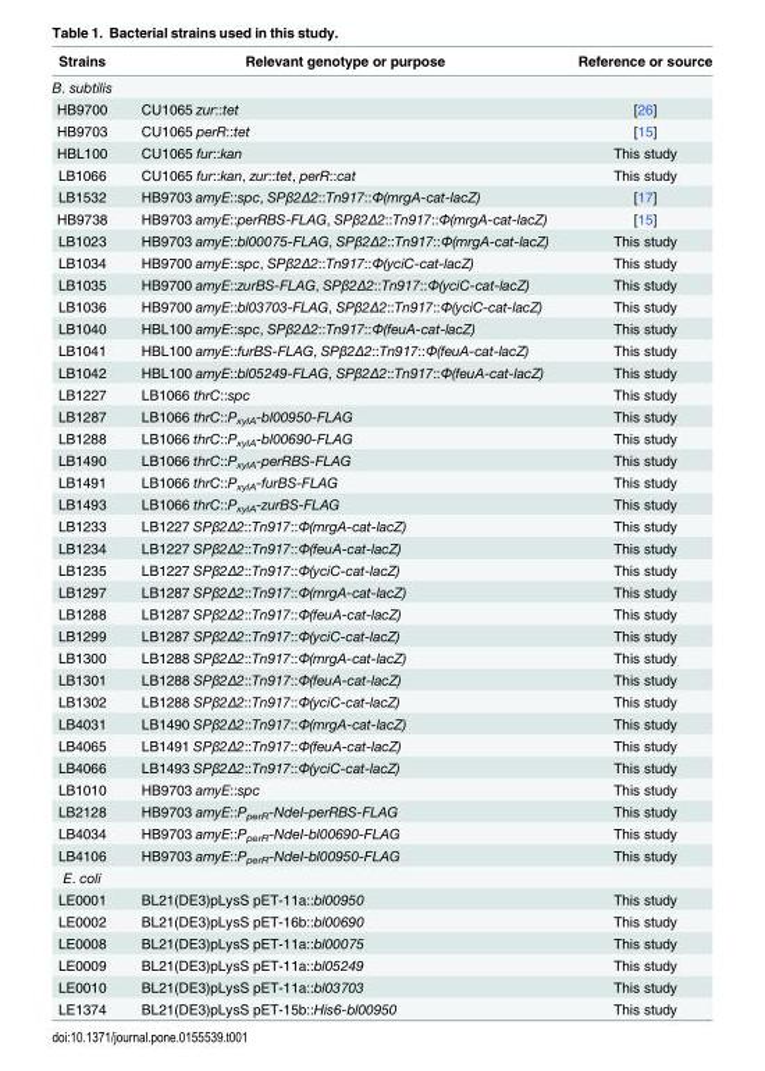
<table><thead><tr><td>Strains</td><td>Relevant genotype or purpose</td><td>Reference or source</td></tr></thead><tbody><tr><td colspan="3">B. subtilis</td></tr><tr><td>HB9700</td><td>CU1065 zur::tet</td><td>[26]</td></tr><tr><td>HB9703</td><td>CU1065 perR::tet</td><td>[15]</td></tr><tr><td>HBL100</td><td>CU1065 fur::kan</td><td>This study</td></tr><tr><td>LB1066</td><td>CU1065 fur::kan, zur::tet, perR::cat</td><td>This study</td></tr><tr><td>LB1532</td><td>HB9703 amyE::spc, SPβ2Δ2::Tn917::Φ(mrgA-cat-lacZ)</td><td>[17]</td></tr><tr><td>HB9738</td><td>HB9703 amyE::perRBS-FLAG, SPβ2Δ2::Tn917::Φ(mrgA-cat-lacZ)</td><td>[15]</td></tr><tr><td>LB1023</td><td>HB9703 amyE::bl00075-FLAG, SPβ2Δ2::Tn917::Φ(mrgA-cat-lacZ)</td><td>This study</td></tr><tr><td>LB1034</td><td>HB9700 amyE::spc, SPβ2Δ2::Tn917::Φ(yciC-cat-lacZ)</td><td>This study</td></tr><tr><td>LB1035</td><td>HB9700 amyE::zurBS-FLAG, SPβ2Δ2::Tn917::Φ(yciC-cat-lacZ)</td><td>This study</td></tr><tr><td>LB1036</td><td>HB9700 amyE::bl03703-FLAG, SPβ2Δ2::Tn917::Φ(yciC-cat-lacZ)</td><td>This study</td></tr><tr><td>LB1040</td><td>HBL100 amyE::spc, SPβ2Δ2::Tn917::Φ(feuA-cat-lacZ)</td><td>This study</td></tr><tr><td>LB1041</td><td>HBL100 amyE::furBS-FLAG, SPβ2Δ2::Tn917::Φ(feuA-cat-lacZ)</td><td>This study</td></tr><tr><td>LB1042</td><td>HBL100 amyE::bl05249-FLAG, SPβ2Δ2::Tn917::Φ(feuA-cat-lacZ)</td><td>This study</td></tr><tr><td>LB1227</td><td>LB1066 thrC::spc</td><td>This study</td></tr><tr><td>LB1287</td><td>LB1066 thrC::P<sub>xylA</sub>-bl00950-FLAG</td><td>This study</td></tr><tr><td>LB1288</td><td>LB1066 thrC::P<sub>xylA</sub>-bl00690-FLAG</td><td>This study</td></tr><tr><td>LB1490</td><td>LB1066 thrC::P<sub>xylA</sub>-perRBS-FLAG</td><td>This study</td></tr><tr><td>LB1491</td><td>LB1066 thrC::P<sub>xylA</sub>-furBS-FLAG</td><td>This study</td></tr><tr><td>LB1493</td><td>LB1066 thrC::P<sub>xylA</sub>-zurBS-FLAG</td><td>This study</td></tr><tr><td>LB1233</td><td>LB1227 SPβ2Δ2::Tn917::Φ(mrgA-cat-lacZ)</td><td>This study</td></tr><tr><td>LB1234</td><td>LB1227 SPβ2Δ2::Tn917::Φ(feuA-cat-lacZ)</td><td>This study</td></tr><tr><td>LB1235</td><td>LB1227 SPβ2Δ2::Tn917::Φ(yciC-cat-lacZ)</td><td>This study</td></tr><tr><td>LB1297</td><td>LB1287 SPβ2Δ2::Tn917::Φ(mrgA-cat-lacZ)</td><td>This study</td></tr><tr><td>LB1288</td><td>LB1287 SPβ2Δ2::Tn917::Φ(feuA-cat-lacZ)</td><td>This study</td></tr><tr><td>LB1299</td><td>LB1287 SPβ2Δ2::Tn917::Φ(yciC-cat-lacZ)</td><td>This study</td></tr><tr><td>LB1300</td><td>LB1288 SPβ2Δ2::Tn917::Φ(mrgA-cat-lacZ)</td><td>This study</td></tr><tr><td>LB1301</td><td>LB1288 SPβ2Δ2::Tn917::Φ(feuA-cat-lacZ)</td><td>This study</td></tr><tr><td>LB1302</td><td>LB1288 SPβ2Δ2::Tn917::Φ(yciC-cat-lacZ)</td><td>This study</td></tr><tr><td>LB4031</td><td>LB1490 SPβ2Δ2::Tn917::Φ(mrgA-cat-lacZ)</td><td>This study</td></tr><tr><td>LB4065</td><td>LB1491 SPβ2Δ2::Tn917::Φ(feuA-cat-lacZ)</td><td>This study</td></tr><tr><td>LB4066</td><td>LB1493 SPβ2Δ2::Tn917::Φ(yciC-cat-lacZ)</td><td>This study</td></tr><tr><td>LB1010</td><td>HB9703 amyE::spc</td><td>This study</td></tr><tr><td>LB2128</td><td>HB9703 amyE::P<sub>perR</sub>-NdeI-perRBS-FLAG</td><td>This study</td></tr><tr><td>LB4034</td><td>HB9703 amyE::P<sub>perR</sub>-NdeI-bl00690-FLAG</td><td>This study</td></tr><tr><td>LB4106</td><td>HB9703 amyE::P<sub>perR</sub>-NdeI-bl00950-FLAG</td><td>This study</td></tr><tr><td colspan="3">E. coli</td></tr><tr><td>LE0001</td><td>BL21(DE3)pLysS pET-11a::bl00950</td><td>This study</td></tr><tr><td>LE0002</td><td>BL21(DE3)pLysS pET-16b::bl00690</td><td>This study</td></tr><tr><td>LE0008</td><td>BL21(DE3)pLysS pET-11a::bl00075</td><td>This study</td></tr><tr><td>LE0009</td><td>BL21(DE3)pLysS pET-11a::bl05249</td><td>This study</td></tr><tr><td>LE0010</td><td>BL21(DE3)pLysS pET-11a::bl03703</td><td>This study</td></tr><tr><td>LE1374</td><td>BL21(DE3)pLysS pET-15b::His6-bl00950</td><td>This study</td></tr></tbody></table>